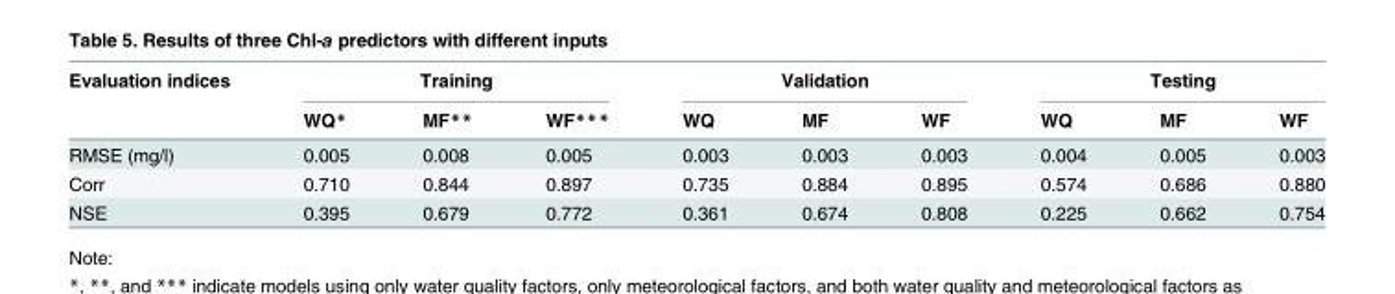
<table><thead><tr><td rowspan="2">Evaluation indices</td><td colspan="3">Training</td><td colspan="3">Validation</td><td colspan="3">Testing</td></tr><tr><td>WQ*</td><td>MF**</td><td>WF***</td><td>WQ</td><td>MF</td><td>WF</td><td>WQ</td><td>MF</td><td>WF</td></tr></thead><tbody><tr><td>RMSE (mg/l)</td><td>0.005</td><td>0.008</td><td>0.005</td><td>0.003</td><td>0.003</td><td>0.003</td><td>0.004</td><td>0.005</td><td>0.003</td></tr><tr><td>Corr</td><td>0.710</td><td>0.844</td><td>0.897</td><td>0.735</td><td>0.884</td><td>0.895</td><td>0.574</td><td>0.686</td><td>0.880</td></tr><tr><td>NSE</td><td>0.395</td><td>0.679</td><td>0.772</td><td>0.361</td><td>0.674</td><td>0.808</td><td>0.225</td><td>0.662</td><td>0.754</td></tr></tbody></table>